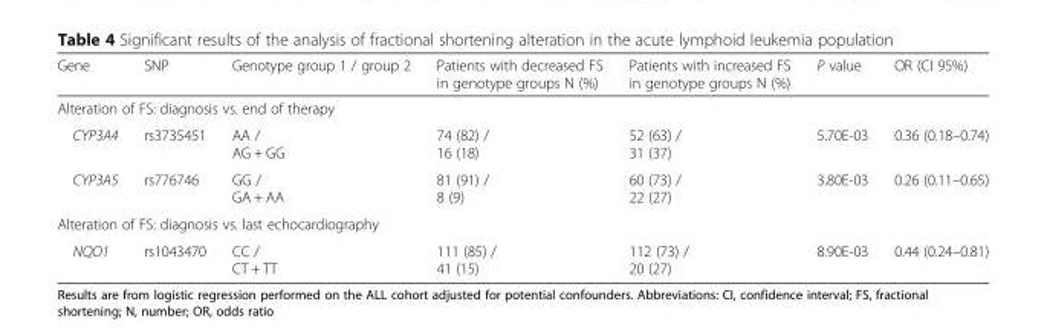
<table><thead><tr><td>Gene</td><td>SNP</td><td>Genotype group 1 / group 2</td><td>Patients with decreased FS in genotype groups N (%)</td><td>Patients with increased FS in genotype groups N (%)</td><td>P value</td><td>OR (CI 95%)</td></tr></thead><tbody><tr><td colspan="7">Alteration of FS: diagnosis vs. end of therapy</td></tr><tr><td>CYP3A4</td><td>rs3735451</td><td>AA / AG + GG</td><td>74 (82) / 16 (18)</td><td>52 (63) / 31 (37)</td><td>5.70E-03</td><td>0.36 (0.18–0.74)</td></tr><tr><td>CYP3A5</td><td>rs776746</td><td>GG / GA + AA</td><td>81 (91) / 8 (9)</td><td>60 (73) / 22 (27)</td><td>3.80E-03</td><td>0.26 (0.11–0.65)</td></tr><tr><td colspan="7">Alteration of FS: diagnosis vs. last echocardiography</td></tr><tr><td>NQO1</td><td>rs1043470</td><td>CC / CT + TT</td><td>111 (85) / 41 (15)</td><td>112 (73) / 20 (27)</td><td>8.90E-03</td><td>0.44 (0.24–0.81)</td></tr></tbody></table>